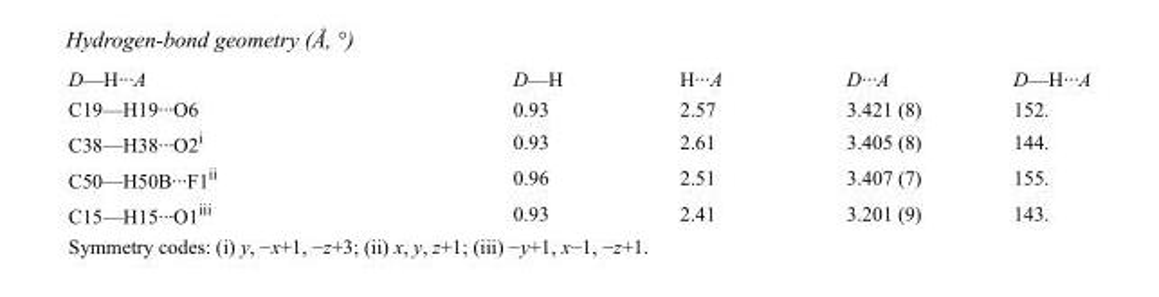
<table><tbody><tr><td>D—H···A</td><td>D—H</td><td>H···A</td><td>D···A</td><td>D—H···A</td></tr><tr><td>C19—H19···O6</td><td>0.93</td><td>2.57</td><td>3.421 (8)</td><td>152.</td></tr><tr><td>C38—H38···O2<sup>i</sup></td><td>0.93</td><td>2.61</td><td>3.405 (8)</td><td>144.</td></tr><tr><td>C50—H50B···F1<sup>ii</sup></td><td>0.96</td><td>2.51</td><td>3.407 (7)</td><td>155.</td></tr><tr><td>C15—H15···O1<sup>iii</sup></td><td>0.93</td><td>2.41</td><td>3.201 (9)</td><td>143.</td></tr></tbody></table>